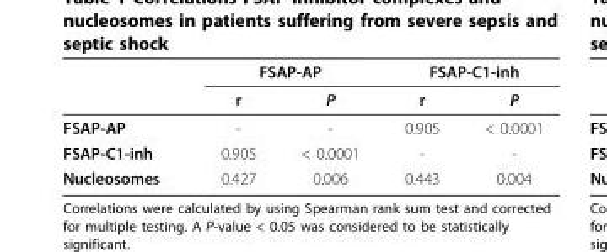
<table><thead><tr><td rowspan="2"></td><td colspan="2">FSAP-AP</td><td colspan="2">FSAP-C1-inh</td></tr><tr><td>r</td><td>P</td><td>r</td><td>P</td></tr></thead><tbody><tr><td>FSAP-AP</td><td>-</td><td>-</td><td>0.905</td><td>&lt; 0.0001</td></tr><tr><td>FSAP-C1-inh</td><td>0.905</td><td>&lt; 0.0001</td><td>-</td><td>-</td></tr><tr><td>Nucleosomes</td><td>0.427</td><td>0.006</td><td>0.443</td><td>0.004</td></tr></tbody></table>